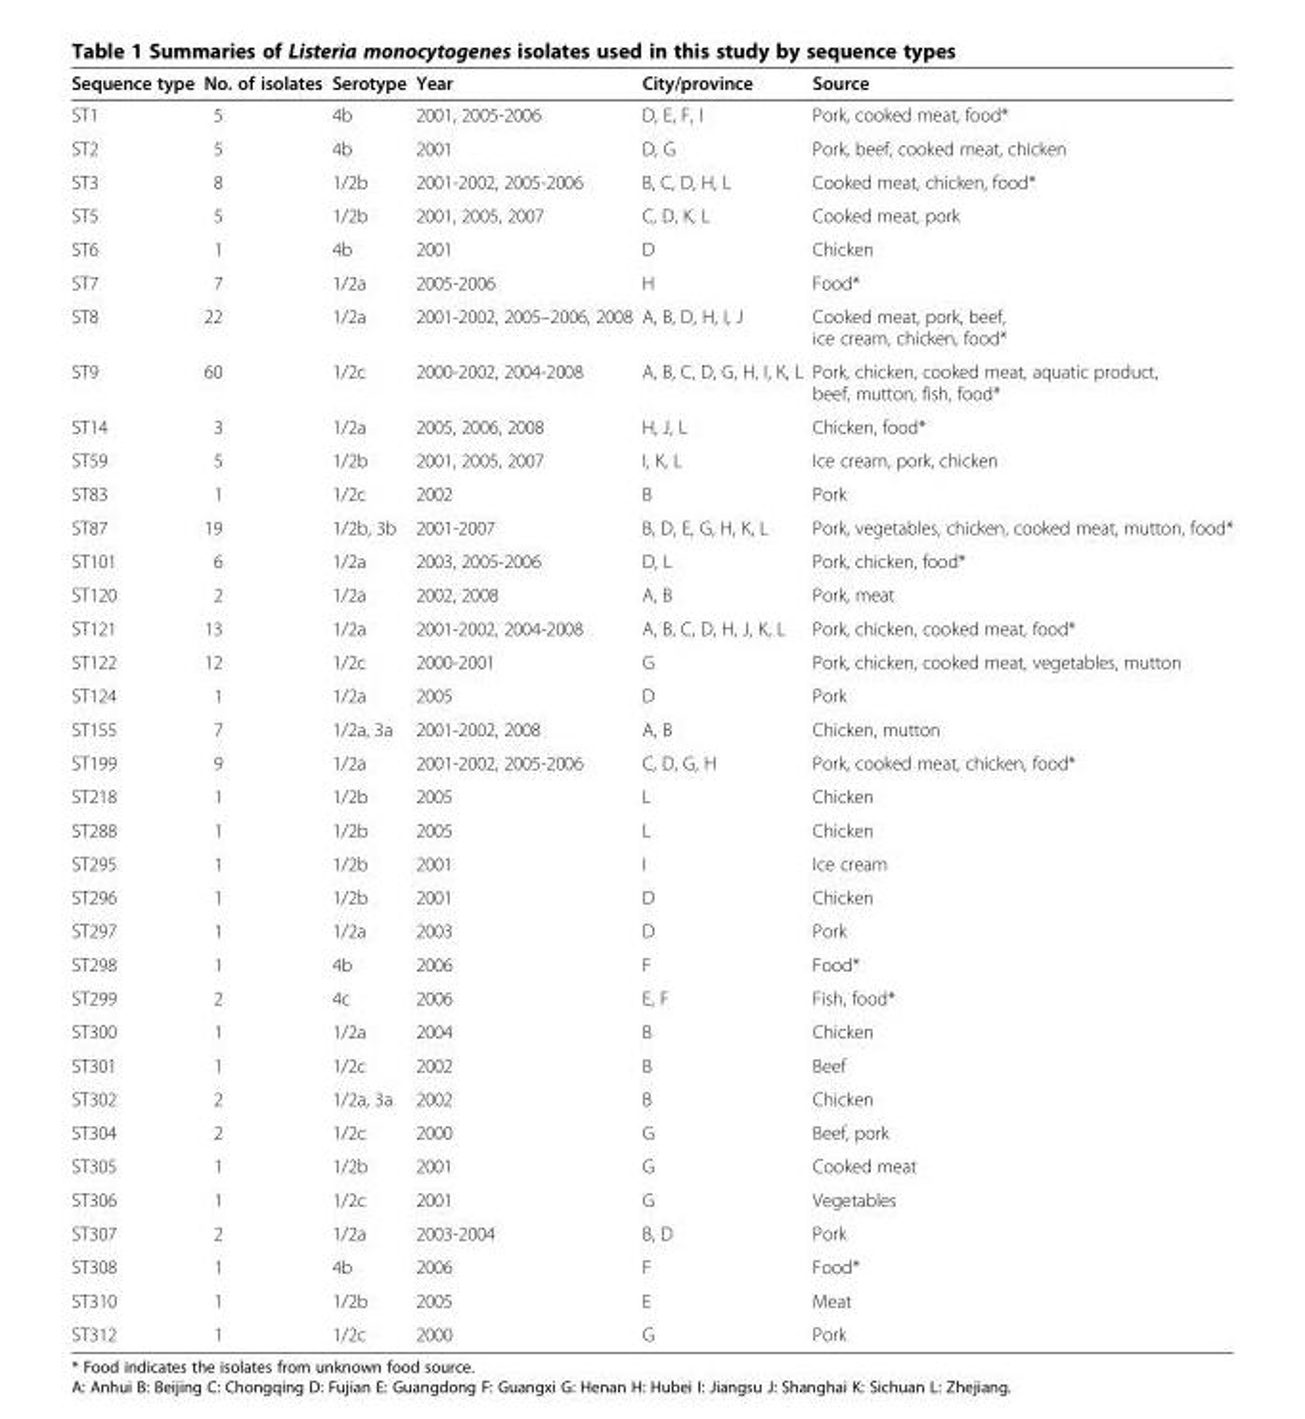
<table><thead><tr><td>Sequence type</td><td>No. of isolates</td><td>Serotype</td><td>Year</td><td>City/province</td><td>Source</td></tr></thead><tbody><tr><td>ST1</td><td>5</td><td>4b</td><td>2001, 2005-2006</td><td>D, E, F, I</td><td>Pork, cooked meat, food*</td></tr><tr><td>ST2</td><td>5</td><td>4b</td><td>2001</td><td>D, G</td><td>Pork, beef, cooked meat, chicken</td></tr><tr><td>ST3</td><td>8</td><td>1/2b</td><td>2001-2002, 2005-2006</td><td>B, C, D, H, L</td><td>Cooked meat, chicken, food*</td></tr><tr><td>ST5</td><td>5</td><td>1/2b</td><td>2001, 2005, 2007</td><td>C, D, K, L</td><td>Cooked meat, pork</td></tr><tr><td>ST6</td><td>1</td><td>4b</td><td>2001</td><td>D</td><td>Chicken</td></tr><tr><td>ST7</td><td>7</td><td>1/2a</td><td>2005-2006</td><td>H</td><td>Food*</td></tr><tr><td>ST8</td><td>22</td><td>1/2a</td><td>2001-2002, 2005–2006, 2008</td><td>A, B, D, H, I, J</td><td>Cooked meat, pork, beef, ice cream, chicken, food*</td></tr><tr><td>ST9</td><td>60</td><td>1/2c</td><td>2000-2002, 2004-2008</td><td>A, B, C, D, G, H, I, K, L</td><td>Pork, chicken, cooked meat, aquatic product, beef, mutton, fish, food*</td></tr><tr><td>ST14</td><td>3</td><td>1/2a</td><td>2005, 2006, 2008</td><td>H, J, L</td><td>Chicken, food*</td></tr><tr><td>ST59</td><td>5</td><td>1/2b</td><td>2001, 2005, 2007</td><td>I, K, L</td><td>Ice cream, pork, chicken</td></tr><tr><td>ST83</td><td>1</td><td>1/2c</td><td>2002</td><td>B</td><td>Pork</td></tr><tr><td>ST87</td><td>19</td><td>1/2b, 3b</td><td>2001-2007</td><td>B, D, E, G, H, K, L</td><td>Pork, vegetables, chicken, cooked meat, mutton, food*</td></tr><tr><td>ST101</td><td>6</td><td>1/2a</td><td>2003, 2005-2006</td><td>D, L</td><td>Pork, chicken, food*</td></tr><tr><td>ST120</td><td>2</td><td>1/2a</td><td>2002, 2008</td><td>A, B</td><td>Pork, meat</td></tr><tr><td>ST121</td><td>13</td><td>1/2a</td><td>2001-2002, 2004-2008</td><td>A, B, C, D, H, J, K, L</td><td>Pork, chicken, cooked meat, food*</td></tr><tr><td>ST122</td><td>12</td><td>1/2c</td><td>2000-2001</td><td>G</td><td>Pork, chicken, cooked meat, vegetables, mutton</td></tr><tr><td>ST124</td><td>1</td><td>1/2a</td><td>2005</td><td>D</td><td>Pork</td></tr><tr><td>ST155</td><td>7</td><td>1/2a, 3a</td><td>2001-2002, 2008</td><td>A, B</td><td>Chicken, mutton</td></tr><tr><td>ST199</td><td>9</td><td>1/2a</td><td>2001-2002, 2005-2006</td><td>C, D, G, H</td><td>Pork, cooked meat, chicken, food*</td></tr><tr><td>ST218</td><td>1</td><td>1/2b</td><td>2005</td><td>L</td><td>Chicken</td></tr><tr><td>ST288</td><td>1</td><td>1/2b</td><td>2005</td><td>L</td><td>Chicken</td></tr><tr><td>ST295</td><td>1</td><td>1/2b</td><td>2001</td><td>I</td><td>Ice cream</td></tr><tr><td>ST296</td><td>1</td><td>1/2b</td><td>2001</td><td>D</td><td>Chicken</td></tr><tr><td>ST297</td><td>1</td><td>1/2a</td><td>2003</td><td>D</td><td>Pork</td></tr><tr><td>ST298</td><td>1</td><td>4b</td><td>2006</td><td>F</td><td>Food*</td></tr><tr><td>ST299</td><td>2</td><td>4c</td><td>2006</td><td>E, F</td><td>Fish, food*</td></tr><tr><td>ST300</td><td>1</td><td>1/2a</td><td>2004</td><td>B</td><td>Chicken</td></tr><tr><td>ST301</td><td>1</td><td>1/2c</td><td>2002</td><td>B</td><td>Beef</td></tr><tr><td>ST302</td><td>2</td><td>1/2a, 3a</td><td>2002</td><td>B</td><td>Chicken</td></tr><tr><td>ST304</td><td>2</td><td>1/2c</td><td>2000</td><td>G</td><td>Beef, pork</td></tr><tr><td>ST305</td><td>1</td><td>1/2b</td><td>2001</td><td>G</td><td>Cooked meat</td></tr><tr><td>ST306</td><td>1</td><td>1/2c</td><td>2001</td><td>G</td><td>Vegetables</td></tr><tr><td>ST307</td><td>2</td><td>1/2a</td><td>2003-2004</td><td>B, D</td><td>Pork</td></tr><tr><td>ST308</td><td>1</td><td>4b</td><td>2006</td><td>F</td><td>Food*</td></tr><tr><td>ST310</td><td>1</td><td>1/2b</td><td>2005</td><td>E</td><td>Meat</td></tr><tr><td>ST312</td><td>1</td><td>1/2c</td><td>2000</td><td>G</td><td>Pork</td></tr></tbody></table>